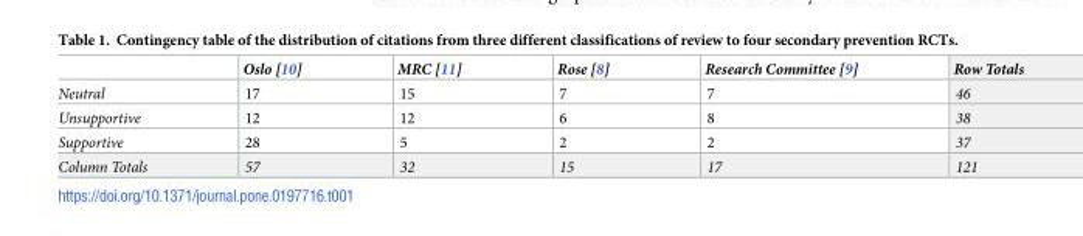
<table><thead><tr><td></td><td>Oslo [10]</td><td>MRC [11]</td><td>Rose [8]</td><td>Research Committee [9]</td><td>Row Totals</td></tr></thead><tbody><tr><td>Neutral</td><td>17</td><td>15</td><td>7</td><td>7</td><td>46</td></tr><tr><td>Unsupportive</td><td>12</td><td>12</td><td>6</td><td>8</td><td>38</td></tr><tr><td>Supportive</td><td>28</td><td>5</td><td>2</td><td>2</td><td>37</td></tr><tr><td>Column Totals</td><td>57</td><td>32</td><td>15</td><td>17</td><td>121</td></tr></tbody></table>